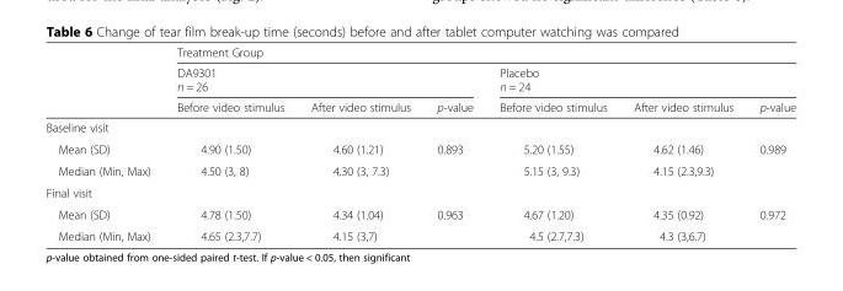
<table><thead><tr><td rowspan="4"></td><td colspan="6">Treatment Group</td></tr><tr><td rowspan="2" colspan="3">DA9301 n = 26</td><td rowspan="2" colspan="3">Placebo n = 24</td></tr><tr></tr><tr><td>Before video stimulus</td><td>After video stimulus</td><td>p-value</td><td>Before video stimulus</td><td>After video stimulus</td><td>p-value</td></tr></thead><tbody><tr><td colspan="7">Baseline visit</td></tr><tr><td>Mean (SD)</td><td>4.90 (1.50)</td><td>4.60 (1.21)</td><td rowspan="2">0.893</td><td>5.20 (1.55)</td><td>4.62 (1.46)</td><td rowspan="2">0.989</td></tr><tr><td>Median (Min, Max)</td><td>4.50 (3, 8)</td><td>4.30 (3, 7.3)</td><td>5.15 (3, 9.3)</td><td>4.15 (2.3,9.3)</td></tr><tr><td colspan="7">Final visit</td></tr><tr><td>Mean (SD)</td><td>4.78 (1.50)</td><td>4.34 (1.04)</td><td rowspan="2">0.963</td><td>4.67 (1.20)</td><td>4.35 (0.92)</td><td rowspan="2">0.972</td></tr><tr><td>Median (Min, Max)</td><td>4.65 (2.3,7.7)</td><td>4.15 (3,7)</td><td>4.5 (2.7,7.3)</td><td>4.3 (3,6.7)</td></tr></tbody></table>